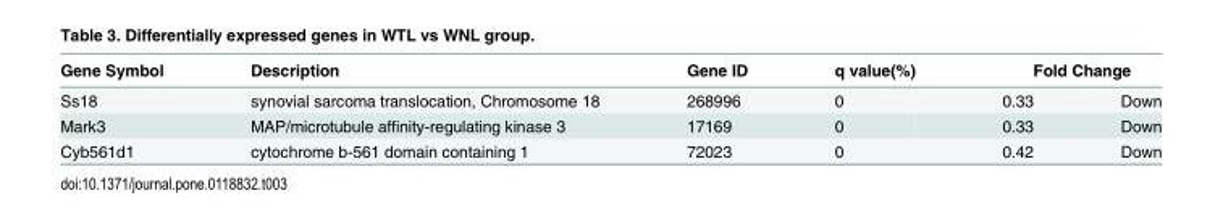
<table><thead><tr><td rowspan="2">Gene Symbol Ss18</td><td rowspan="2">Description synovial sarcoma translocation, Chromosome 18</td><td rowspan="2">Gene ID 268996</td><td rowspan="2">q value(%) 0</td><td colspan="2">Fold Change</td></tr><tr><td>0.33</td><td>Down</td></tr></thead><tbody><tr><td>Mark3</td><td>MAP/microtubule affinity-regulating kinase 3</td><td>17169</td><td>0</td><td>0.33</td><td>Down</td></tr><tr><td>Cyb561d1</td><td>cytochrome b-561 domain containing 1</td><td>72023</td><td>0</td><td>0.42</td><td>Down</td></tr></tbody></table>